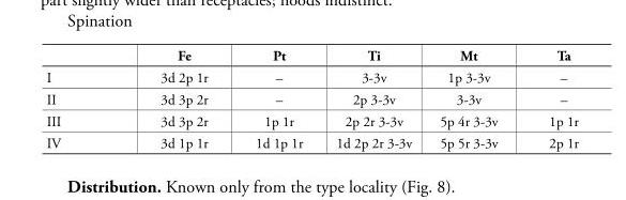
<table><thead><tr><td></td><td>Fe</td><td>Pt</td><td>Ti</td><td>Mt</td><td>Ta</td></tr></thead><tbody><tr><td>I</td><td>3d 2p 1r</td><td>–</td><td>3-3v</td><td>1p 3-3v</td><td>–</td></tr><tr><td>II</td><td>3d 3p 2r</td><td>–</td><td>2p 3-3v</td><td>3-3v</td><td>–</td></tr><tr><td>III</td><td>3d 3p 2r</td><td>1p 1r</td><td>2p 2r 3-3v</td><td>5p 4r 3-3v</td><td>1p 1r</td></tr><tr><td>IV</td><td>3d 1p 1r</td><td>1d 1p 1r</td><td>1d 2p 2r 3-3v</td><td>5p 5r 3-3v</td><td>2p 1r</td></tr></tbody></table>